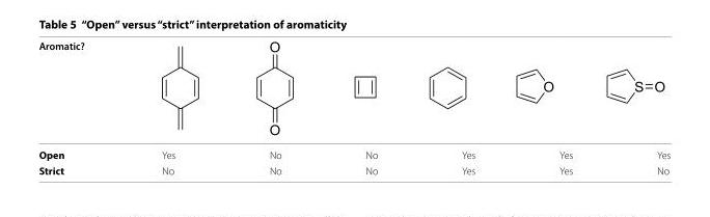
<table><thead><tr><td>Aromatic?</td><td></td><td></td><td></td><td></td><td></td><td></td></tr></thead><tbody><tr><td>Open</td><td>Yes</td><td>No</td><td>No</td><td>Yes</td><td>Yes</td><td>Yes</td></tr><tr><td>Strict</td><td>No</td><td>No</td><td>No</td><td>Yes</td><td>Yes</td><td>No</td></tr></tbody></table>